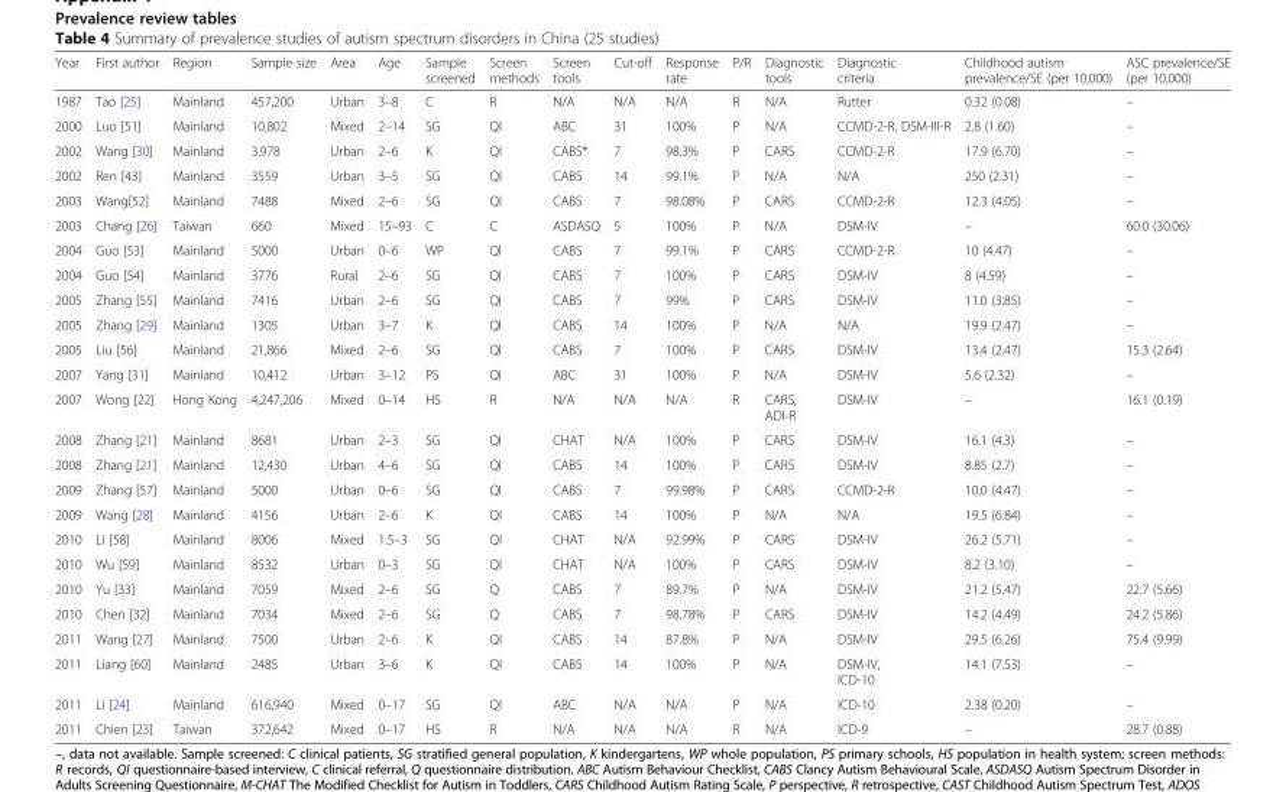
<table><thead><tr><td>Year</td><td>First author</td><td>Region</td><td>Sample size</td><td>Area</td><td>Age</td><td>Sample screened</td><td>Screen methods</td><td>Screen tools</td><td>Cut-off</td><td>Response rate</td><td>P/R</td><td>Diagnostic tools</td><td>Diagnostic criteria</td><td>Childhood autism prevalence/SE (per 10,000)</td><td>ASC prevalence/SE (per 10,000)</td></tr></thead><tbody><tr><td>1987</td><td>Tao [25]</td><td>Mainland</td><td>457,200</td><td>Urban</td><td>3–8</td><td>C</td><td>R</td><td>N/A</td><td>N/A</td><td>N/A</td><td>R</td><td>N/A</td><td>Rutter</td><td>0.32 (0.08)</td><td>–</td></tr><tr><td>2000</td><td>Luo [51]</td><td>Mainland</td><td>10,802</td><td>Mixed</td><td>2–14</td><td>SG</td><td>QI</td><td>ABC</td><td>31</td><td>100%</td><td>P</td><td>N/A</td><td>CCMD-2-R, DSM-III-R</td><td>2.8 (1.60)</td><td>–</td></tr><tr><td>2002</td><td>Wang [30]</td><td>Mainland</td><td>3.978</td><td>Urban</td><td>2–6</td><td>K</td><td>QI</td><td>CABS*</td><td>7</td><td>98.3%</td><td>P</td><td>CARS</td><td>CCMD-2-R</td><td>17.9 (6.70)</td><td>–</td></tr><tr><td>2002</td><td>Ren [43]</td><td>Mainland</td><td>3559</td><td>Urban</td><td>3–5</td><td>SG</td><td>QI</td><td>CABS</td><td>14</td><td>99.1%</td><td>P</td><td>N/A</td><td>N/A</td><td>250 (2.31)</td><td>–</td></tr><tr><td>2003</td><td>Wang[52]</td><td>Mainland</td><td>7488</td><td>Mixed</td><td>2–6</td><td>SG</td><td>QI</td><td>CABS</td><td>7</td><td>98.08%</td><td>P</td><td>CARS</td><td>CCMD-2-R</td><td>12.3 (4.05)</td><td>–</td></tr><tr><td>2003</td><td>Chang [26]</td><td>Taiwan</td><td>660</td><td>Mixed</td><td>15–93</td><td>C</td><td>C</td><td>ASDASQ</td><td>5</td><td>100%</td><td>P</td><td>N/A</td><td>DSM-IV</td><td>–</td><td>60.0 (30.06)</td></tr><tr><td>2004</td><td>Guo [53]</td><td>Mainland</td><td>5000</td><td>Urban</td><td>0–6</td><td>WP</td><td>QI</td><td>CABS</td><td>7</td><td>99.1%</td><td>P</td><td>CARS</td><td>CCMD-2-R</td><td>10 (4.47)</td><td>–</td></tr><tr><td>2004</td><td>Guo [54]</td><td>Mainland</td><td>3776</td><td>Rural</td><td>2–6</td><td>SG</td><td>QI</td><td>CABS</td><td>7</td><td>100%</td><td>P</td><td>CARS</td><td>DSM-IV</td><td>8 (4.59)</td><td>–</td></tr><tr><td>2005</td><td>Zhang [55]</td><td>Mainland</td><td>7416</td><td>Urban</td><td>2–6</td><td>SG</td><td>QI</td><td>CABS</td><td>7</td><td>99%</td><td>P</td><td>CARS</td><td>DSM-IV</td><td>11.0 (3.85)</td><td>–</td></tr><tr><td>2005</td><td>Zhang [29]</td><td>Mainland</td><td>1305</td><td>Urban</td><td>3–7</td><td>K</td><td>QI</td><td>CABS</td><td>14</td><td>100%</td><td>P</td><td>N/A</td><td>N/A</td><td>19.9 (2.47)</td><td>–</td></tr><tr><td>2005</td><td>Liu [56]</td><td>Mainland</td><td>21,866</td><td>Mixed</td><td>2–6</td><td>SG</td><td>QI</td><td>CABS</td><td>7</td><td>100%</td><td>P</td><td>CARS</td><td>DSM-IV</td><td>13.4 (2.47)</td><td>15.3 (2.64)</td></tr><tr><td>2007</td><td>Yang [31]</td><td>Mainland</td><td>10,412</td><td>Urban</td><td>3–12</td><td>PS</td><td>QI</td><td>ABC</td><td>31</td><td>100%</td><td>P</td><td>N/A</td><td>DSM-IV</td><td>5.6 (2.32)</td><td>–</td></tr><tr><td>2007</td><td>Wong [22]</td><td>Hong Kong</td><td>4,247,206</td><td>Mixed</td><td>0–14</td><td>HS</td><td>R</td><td>N/A</td><td>N/A</td><td>N/A</td><td>R</td><td>CARS, ADI-R</td><td>DSM-IV</td><td>–</td><td>16.1 (0.19)</td></tr><tr><td>2008</td><td>Zhang [21]</td><td>Mainland</td><td>8681</td><td>Urban</td><td>2–3</td><td>SG</td><td>QI</td><td>CHAT</td><td>N/A</td><td>100%</td><td>P</td><td>CARS</td><td>DSM-IV</td><td>16.1 (4.3)</td><td>–</td></tr><tr><td>2008</td><td>Zhang [21]</td><td>Mainland</td><td>12,430</td><td>Urban</td><td>4–6</td><td>SG</td><td>QI</td><td>CABS</td><td>14</td><td>100%</td><td>P</td><td>CARS</td><td>DSM-IV</td><td>8.85 (2.7)</td><td>–</td></tr><tr><td>2009</td><td>Zhang [57]</td><td>Mainland</td><td>5000</td><td>Urban</td><td>0–6</td><td>SG</td><td>QI</td><td>CABS</td><td>7</td><td>99.98%</td><td>P</td><td>CARS</td><td>CCMD-2-R</td><td>10.0 (4.47)</td><td>–</td></tr><tr><td>2009</td><td>Wang [28]</td><td>Mainland</td><td>4156</td><td>Urban</td><td>2–6</td><td>K</td><td>QI</td><td>CABS</td><td>14</td><td>100%</td><td>P</td><td>N/A</td><td>N/A</td><td>19.5 (6.84)</td><td>–</td></tr><tr><td>2010</td><td>Li [58]</td><td>Mainland</td><td>8006</td><td>Mixed</td><td>1.5–3</td><td>SG</td><td>QI</td><td>CHAT</td><td>N/A</td><td>92.99%</td><td>P</td><td>CARS</td><td>DSM-IV</td><td>26.2 (5.71)</td><td>–</td></tr><tr><td>2010</td><td>Wu [59]</td><td>Mainland</td><td>8532</td><td>Urban</td><td>0–3</td><td>SG</td><td>QI</td><td>CHAT</td><td>N/A</td><td>100%</td><td>P</td><td>CARS</td><td>DSM-IV</td><td>8.2 (3.10)</td><td>–</td></tr><tr><td>2010</td><td>Yu [33]</td><td>Mainland</td><td>7059</td><td>Mixed</td><td>2–6</td><td>SG</td><td>Q</td><td>CABS</td><td>7</td><td>89.7%</td><td>P</td><td>N/A</td><td>DSM-IV</td><td>21.2 (5.47)</td><td>22.7 (5.66)</td></tr><tr><td>2010</td><td>Chen [32]</td><td>Mainland</td><td>7034</td><td>Mixed</td><td>2–6</td><td>SG</td><td>Q</td><td>CABS</td><td>7</td><td>98.78%</td><td>P</td><td>CARS</td><td>DSM-IV</td><td>14.2 (4.49)</td><td>24.2 (5.86)</td></tr><tr><td>2011</td><td>Wang [27]</td><td>Mainland</td><td>7500</td><td>Urban</td><td>2–6</td><td>K</td><td>QI</td><td>CABS</td><td>14</td><td>87.8%</td><td>P</td><td>N/A</td><td>DSM-IV</td><td>29.5 (6.26)</td><td>75.4 (9.99)</td></tr><tr><td>2011</td><td>Liang [60]</td><td>Mainland</td><td>2485</td><td>Urban</td><td>3–6</td><td>K</td><td>QI</td><td>CABS</td><td>14</td><td>100%</td><td>P</td><td>N/A</td><td>DSM-IV, ICD-10</td><td>14.1 (7.53)</td><td>–</td></tr><tr><td>2011</td><td>Li [24]</td><td>Mainland</td><td>616,940</td><td>Mixed</td><td>0–17</td><td>SG</td><td>QI</td><td>ABC</td><td>N/A</td><td>N/A</td><td>P</td><td>N/A</td><td>ICD-10</td><td>2.38 (0.20)</td><td>–</td></tr><tr><td>2011</td><td>Chien [23]</td><td>Taiwan</td><td>372,642</td><td>Mixed</td><td>0–17</td><td>HS</td><td>R</td><td>N/A</td><td>N/A</td><td>N/A</td><td>R</td><td>N/A</td><td>ICD-9</td><td>–</td><td>28.7 (0.88)</td></tr></tbody></table>